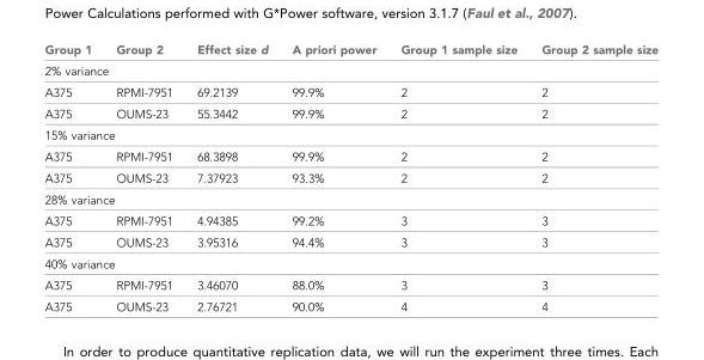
<table><thead><tr><td>Group 1</td><td>Group 2</td><td>Effect size d</td><td>A priori power</td><td>Group 1 sample size</td><td>Group 2 sample size</td></tr></thead><tbody><tr><td colspan="6">2% variance</td></tr><tr><td>A375</td><td>RPMI-7951</td><td>69.2139</td><td>99.9%</td><td>2</td><td>2</td></tr><tr><td>A375</td><td>OUMS-23</td><td>55.3442</td><td>99.9%</td><td>2</td><td>2</td></tr><tr><td colspan="6">15% variance</td></tr><tr><td>A375</td><td>RPMI-7951</td><td>68.3898</td><td>99.9%</td><td>2</td><td>2</td></tr><tr><td>A375</td><td>OUMS-23</td><td>7.37923</td><td>93.3%</td><td>2</td><td>2</td></tr><tr><td colspan="6">28% variance</td></tr><tr><td>A375</td><td>RPMI-7951</td><td>4.94385</td><td>99.2%</td><td>3</td><td>3</td></tr><tr><td>A375</td><td>OUMS-23</td><td>3.95316</td><td>94.4%</td><td>3</td><td>3</td></tr><tr><td colspan="6">40% variance</td></tr><tr><td>A375</td><td>RPMI-7951</td><td>3.46070</td><td>88.0%</td><td>3</td><td>3</td></tr><tr><td>A375</td><td>OUMS-23</td><td>2.76721</td><td>90.0%</td><td>4</td><td>4</td></tr></tbody></table>